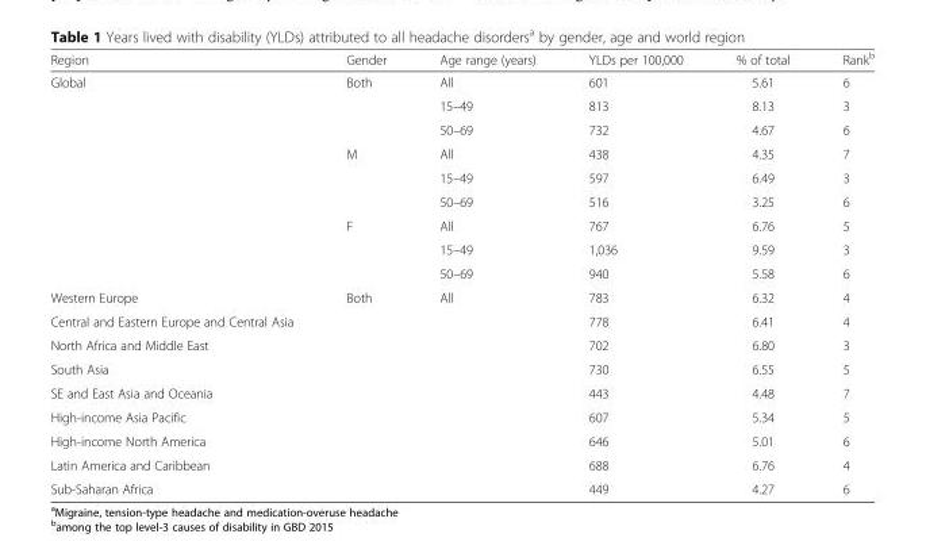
<table><thead><tr><td>Region</td><td>Gender</td><td>Age range (years)</td><td>YLDs per 100,000</td><td>% of total</td><td>Rank<sup>b</sup></td></tr></thead><tbody><tr><td rowspan="9">Global</td><td rowspan="3">Both</td><td>All</td><td>601</td><td>5.61</td><td>6</td></tr><tr><td>15–49</td><td>813</td><td>8.13</td><td>3</td></tr><tr><td>50–69</td><td>732</td><td>4.67</td><td>6</td></tr><tr><td rowspan="3">M</td><td>All</td><td>438</td><td>4.35</td><td>7</td></tr><tr><td>15–49</td><td>597</td><td>6.49</td><td>3</td></tr><tr><td>50–69</td><td>516</td><td>3.25</td><td>6</td></tr><tr><td rowspan="3">F</td><td>All</td><td>767</td><td>6.76</td><td>5</td></tr><tr><td>15–49</td><td>1,036</td><td>9.59</td><td>3</td></tr><tr><td>50–69</td><td>940</td><td>5.58</td><td>6</td></tr><tr><td>Western Europe</td><td>Both</td><td>All</td><td>783</td><td>6.32</td><td>4</td></tr><tr><td>Central and Eastern Europe and Central Asia</td><td></td><td></td><td>778</td><td>6.41</td><td>4</td></tr><tr><td>North Africa and Middle East</td><td></td><td></td><td>702</td><td>6.80</td><td>3</td></tr><tr><td>South Asia</td><td></td><td></td><td>730</td><td>6.55</td><td>5</td></tr><tr><td>SE and East Asia and Oceania</td><td></td><td></td><td>443</td><td>4.48</td><td>7</td></tr><tr><td>High-income Asia Pacific</td><td></td><td></td><td>607</td><td>5.34</td><td>5</td></tr><tr><td>High-income North America</td><td></td><td></td><td>646</td><td>5.01</td><td>6</td></tr><tr><td>Latin America and Caribbean</td><td></td><td></td><td>688</td><td>6.76</td><td>4</td></tr><tr><td>Sub-Saharan Africa</td><td></td><td></td><td>449</td><td>4.27</td><td>6</td></tr></tbody></table>